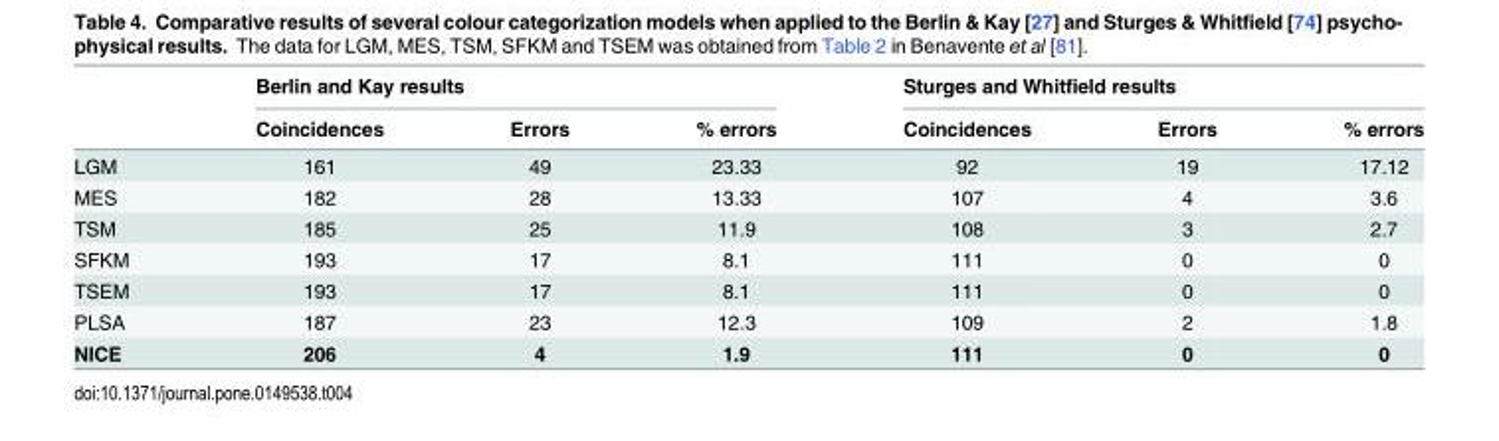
<table><thead><tr><td rowspan="2"></td><td colspan="3">Berlin and Kay results</td><td colspan="3">Sturges and Whitfield results</td></tr><tr><td>Coincidences</td><td>Errors</td><td>% errors</td><td>Coincidences</td><td>Errors</td><td>% errors</td></tr></thead><tbody><tr><td>LGM</td><td>161</td><td>49</td><td>23.33</td><td>92</td><td>19</td><td>17.12</td></tr><tr><td>MES</td><td>182</td><td>28</td><td>13.33</td><td>107</td><td>4</td><td>3.6</td></tr><tr><td>TSM</td><td>185</td><td>25</td><td>11.9</td><td>108</td><td>3</td><td>2.7</td></tr><tr><td>SFKM</td><td>193</td><td>17</td><td>8.1</td><td>111</td><td>0</td><td>0</td></tr><tr><td>TSEM</td><td>193</td><td>17</td><td>8.1</td><td>111</td><td>0</td><td>0</td></tr><tr><td>PLSA</td><td>187</td><td>23</td><td>12.3</td><td>109</td><td>2</td><td>1.8</td></tr><tr><td>NICE</td><td>206</td><td>4</td><td>1.9</td><td>111</td><td>0</td><td>0</td></tr></tbody></table>